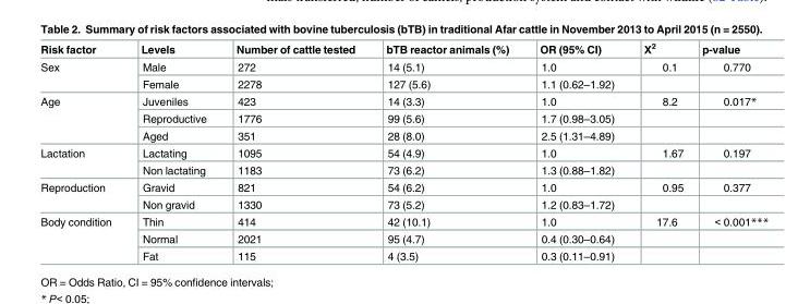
<table><thead><tr><td>Risk factor</td><td>Levels</td><td>Number of cattle tested</td><td>bTB reactor animals (%)</td><td>OR (95% CI)</td><td>Χ<sup>2</sup></td><td>p-value</td></tr></thead><tbody><tr><td rowspan="2">Sex</td><td>Male</td><td>272</td><td>14 (5.1)</td><td>1.0</td><td>0.1</td><td>0.770</td></tr><tr><td>Female</td><td>2278</td><td>127 (5.6)</td><td>1.1 (0.62–1.92)</td><td></td><td></td></tr><tr><td rowspan="3">Age</td><td>Juveniles</td><td>423</td><td>14 (3.3)</td><td>1.0</td><td>8.2</td><td>0.017*</td></tr><tr><td>Reproductive</td><td>1776</td><td>99 (5.6)</td><td>1.7 (0.98–3.05)</td><td></td><td></td></tr><tr><td>Aged</td><td>351</td><td>28 (8.0)</td><td>2.5 (1.31–4.89)</td><td></td><td></td></tr><tr><td rowspan="2">Lactation</td><td>Lactating</td><td>1095</td><td>54 (4.9)</td><td>1.0</td><td>1.67</td><td>0.197</td></tr><tr><td>Non lactating</td><td>1183</td><td>73 (6.2)</td><td>1.3 (0.88–1.82)</td><td></td><td></td></tr><tr><td rowspan="2">Reproduction</td><td>Gravid</td><td>821</td><td>54 (6.2)</td><td>1.0</td><td>0.95</td><td>0.377</td></tr><tr><td>Non gravid</td><td>1330</td><td>73 (5.2)</td><td>1.2 (0.83–1.72)</td><td></td><td></td></tr><tr><td rowspan="3">Body condition</td><td>Thin</td><td>414</td><td>42 (10.1)</td><td>1.0</td><td>17.6</td><td>&lt; 0.001***</td></tr><tr><td>Normal</td><td>2021</td><td>95 (4.7)</td><td>0.4 (0.30–0.64)</td><td></td><td></td></tr><tr><td>Fat</td><td>115</td><td>4 (3.5)</td><td>0.3 (0.11–0.91)</td><td></td><td></td></tr></tbody></table>